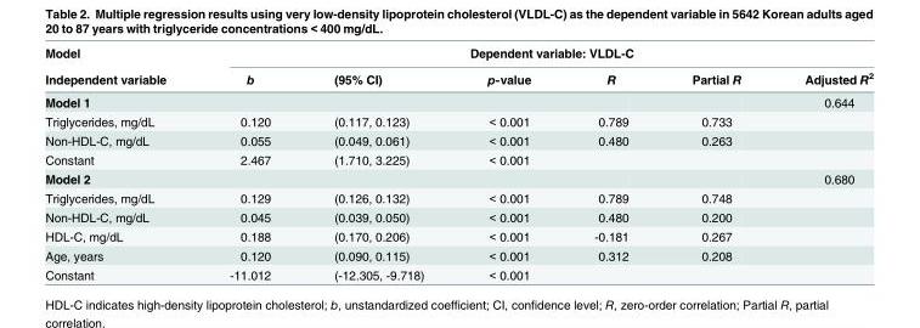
<table><thead><tr><td rowspan="2">Model Independent variable</td><td colspan="6">Dependent variable: VLDL-C</td></tr><tr><td>b</td><td>(95% CI)</td><td>p-value</td><td>R</td><td>Partial R</td><td>Adjusted R<sup>2</sup></td></tr></thead><tbody><tr><td>Model 1</td><td></td><td></td><td></td><td></td><td></td><td>0.644</td></tr><tr><td>Triglycerides, mg/dL</td><td>0.120</td><td>(0.117, 0.123)</td><td>&lt; 0.001</td><td>0.789</td><td>0.733</td><td></td></tr><tr><td>Non-HDL-C, mg/dL</td><td>0.055</td><td>(0.049, 0.061)</td><td>&lt; 0.001</td><td>0.480</td><td>0.263</td><td></td></tr><tr><td>Constant</td><td>2.467</td><td>(1.710, 3.225)</td><td>&lt; 0.001</td><td></td><td></td><td></td></tr><tr><td>Model 2</td><td></td><td></td><td></td><td></td><td></td><td>0.680</td></tr><tr><td>Triglycerides, mg/dL</td><td>0.129</td><td>(0.126, 0.132)</td><td>&lt; 0.001</td><td>0.789</td><td>0.748</td><td></td></tr><tr><td>Non-HDL-C, mg/dL</td><td>0.045</td><td>(0.039, 0.050)</td><td>&lt; 0.001</td><td>0.480</td><td>0.200</td><td></td></tr><tr><td>HDL-C, mg/dL</td><td>0.188</td><td>(0.170, 0.206)</td><td>&lt; 0.001</td><td>-0.181</td><td>0.267</td><td></td></tr><tr><td>Age, years</td><td>0.120</td><td>(0.090, 0.115)</td><td>&lt; 0.001</td><td>0.312</td><td>0.208</td><td></td></tr><tr><td>Constant</td><td>-11.012</td><td>(-12.305, -9.718)</td><td>&lt; 0.001</td><td></td><td></td><td></td></tr></tbody></table>